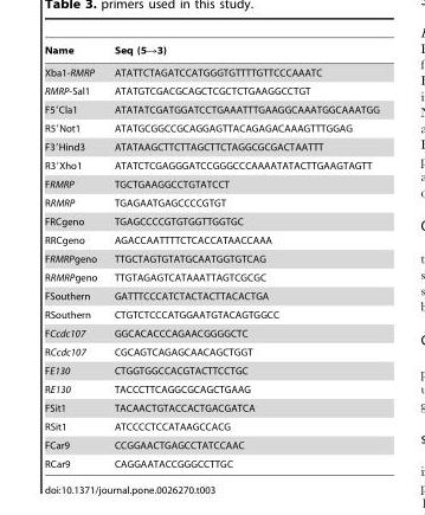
<table><thead><tr><td>Name</td><td>Seq (5→3)</td></tr></thead><tbody><tr><td>Xba1-RMRP</td><td>ATATTCTAGATCCATGGGTGTTTTGTTCCCAAATC</td></tr><tr><td>RMRP-Sal1</td><td>ATATGTCGACGCAGCTCGCTCTGAAGGCCTGT</td></tr><tr><td>F5′Cla1</td><td>ATATATCGATGGATCCTGAAATTTGAAGGCAAATGGCAAATGG</td></tr><tr><td>R5′Not1</td><td>ATATGCGGCCGCAGGAGTTACAGAGACAAAGTTTGGAG</td></tr><tr><td>F3′Hind3</td><td>ATATAAGCTTCTTAGCTTCTAGGCGCGACTAATTT</td></tr><tr><td>R3′Xho1</td><td>ATATCTCGAGGGATCCGGGCCCAAAATATACTTGAAGTAGTT</td></tr><tr><td>FRMRP</td><td>TGCTGAAGGCCTGTATCCT</td></tr><tr><td>RRMRP</td><td>TGAGAATGAGCCCCGTGT</td></tr><tr><td>FRCgeno</td><td>TGAGCCCCGTGTGGTTGGTGC</td></tr><tr><td>RRCgeno</td><td>AGACCAATTTTCTCACCATAACCAAA</td></tr><tr><td>FRMRPgeno</td><td>TTGCTAGTGTATGCAATGGTGTCAG</td></tr><tr><td>RRMRPgeno</td><td>TTGTAGAGTCATAAATTAGTCGCGC</td></tr><tr><td>FSouthern</td><td>GATTTCCCATCTACTACTTACACTGA</td></tr><tr><td>RSouthern</td><td>CTGTCTCCCATGGAATGTACAGTGGCC</td></tr><tr><td>FCcdc107</td><td>GGCACACCCAGAACGGGGCTC</td></tr><tr><td>RCcdc107</td><td>CGCAGTCAGAGCAACAGCTGGT</td></tr><tr><td>FE130</td><td>CTGGTGGCCACGTACTTCCTGC</td></tr><tr><td>RE130</td><td>TACCCTTCAGGCGCAGCTGAAG</td></tr><tr><td>FSit1</td><td>TACAACTGTACCACTGACGATCA</td></tr><tr><td>RSit1</td><td>ATCCCCTCCATAAGCCACG</td></tr><tr><td>FCar9</td><td>CCGGAACTGAGCCTATCCAAC</td></tr><tr><td>RCar9</td><td>CAGGAATACCGGGCCTTGC</td></tr></tbody></table>